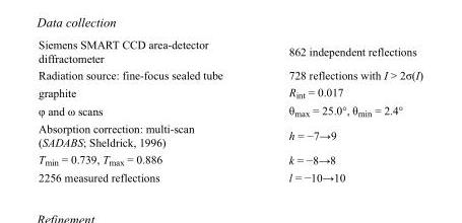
<table><tbody><tr><td>Siemens SMART CCD area-detector diffractometer</td><td>862 independent reflections</td></tr><tr><td>Radiation source: fine-focus sealed tube</td><td>728 reflections with I &gt; 2σ(I)</td></tr><tr><td>graphite</td><td>R<sub>int</sub> = 0.017</td></tr><tr><td>φ and ω scans</td><td>θ<sub>max</sub> = 25.0°, θ<sub>min</sub> = 2.4°</td></tr><tr><td>Absorption correction: multi-scan (SADABS; Sheldrick, 1996)</td><td>h = −7→9</td></tr><tr><td>T<sub>min</sub> = 0.739, T<sub>max</sub> = 0.886</td><td>k = −8→8</td></tr><tr><td>2256 measured reflections</td><td>l = −10→10</td></tr></tbody></table>